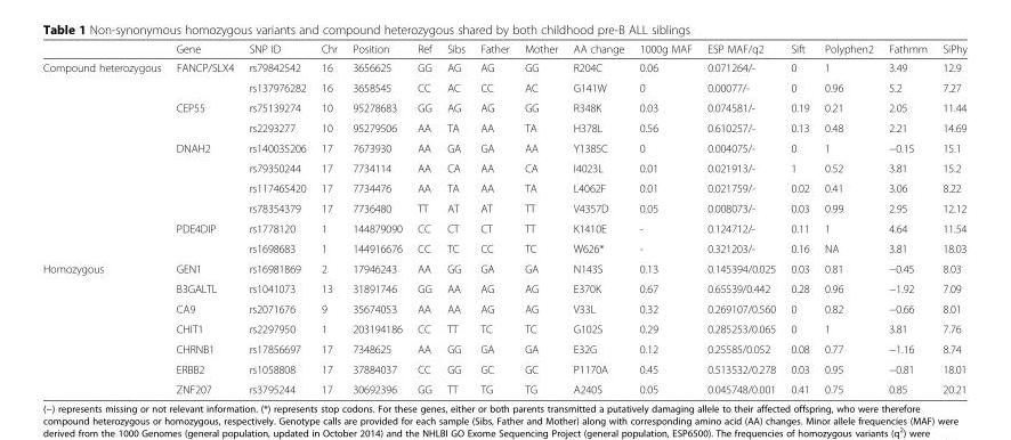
<table><thead><tr><td></td><td>Gene</td><td>SNP ID</td><td>Chr</td><td>Position</td><td>Ref</td><td>Sibs</td><td>Father</td><td>Mother</td><td>AA change</td><td>1000g MAF</td><td>ESP MAF/q2</td><td>Sift</td><td>Polyphen2</td><td>Fathmm</td><td>SiPhy</td></tr></thead><tbody><tr><td rowspan="10">Compound heterozygous</td><td rowspan="2">FANCP/SLX4</td><td>rs79842542</td><td>16</td><td>3656625</td><td>GG</td><td>AG</td><td>AG</td><td>GG</td><td>R204C</td><td>0.06</td><td>0.071264/-</td><td>0</td><td>1</td><td>3.49</td><td>12.9</td></tr><tr><td>rs137976282</td><td>16</td><td>3658545</td><td>CC</td><td>AC</td><td>CC</td><td>AC</td><td>G141W</td><td>0</td><td>0.00077/-</td><td>0</td><td>0.96</td><td>5.2</td><td>7.27</td></tr><tr><td rowspan="2">CEP55</td><td>rs75139274</td><td>10</td><td>95278683</td><td>GG</td><td>AG</td><td>AG</td><td>GG</td><td>R348K</td><td>0.03</td><td>0.074581/-</td><td>0.19</td><td>0.21</td><td>2.05</td><td>11.44</td></tr><tr><td>rs2293277</td><td>10</td><td>95279506</td><td>AA</td><td>TA</td><td>AA</td><td>TA</td><td>H378L</td><td>0.56</td><td>0.610257/-</td><td>0.13</td><td>0.48</td><td>2.21</td><td>14.69</td></tr><tr><td rowspan="4">DNAH2</td><td>rs140035206</td><td>17</td><td>7673930</td><td>AA</td><td>GA</td><td>GA</td><td>AA</td><td>Y1385C</td><td>0</td><td>0.004075/-</td><td>0</td><td>1</td><td>−0.15</td><td>15.1</td></tr><tr><td>rs79350244</td><td>17</td><td>7734114</td><td>AA</td><td>CA</td><td>AA</td><td>CA</td><td>I4023L</td><td>0.01</td><td>0.021913/-</td><td>1</td><td>0.52</td><td>3.81</td><td>15.2</td></tr><tr><td>rs117465420</td><td>17</td><td>7734476</td><td>AA</td><td>TA</td><td>AA</td><td>TA</td><td>L4062F</td><td>0.01</td><td>0.021759/-</td><td>0.02</td><td>0.41</td><td>3.06</td><td>8.22</td></tr><tr><td>rs78354379</td><td>17</td><td>7736480</td><td>TT</td><td>AT</td><td>AT</td><td>TT</td><td>V4357D</td><td>0.05</td><td>0.008073/-</td><td>0.03</td><td>0.99</td><td>2.95</td><td>12.12</td></tr><tr><td rowspan="2">PDE4DIP</td><td>rs1778120</td><td>1</td><td>144879090</td><td>CC</td><td>CT</td><td>CT</td><td>TT</td><td>K1410E</td><td>-</td><td>0.124712/-</td><td>0.11</td><td>1</td><td>4.64</td><td>11.54</td></tr><tr><td>rs1698683</td><td>1</td><td>144916676</td><td>CC</td><td>TC</td><td>CC</td><td>TC</td><td>W626*</td><td>-</td><td>0.321203/-</td><td>0.16</td><td>NA</td><td>3.81</td><td>18.03</td></tr><tr><td rowspan="7">Homozygous</td><td>GEN1</td><td>rs16981869</td><td>2</td><td>17946243</td><td>AA</td><td>GG</td><td>GA</td><td>GA</td><td>N143S</td><td>0.13</td><td>0.145394/0.025</td><td>0.03</td><td>0.81</td><td>−0.45</td><td>8.03</td></tr><tr><td>B3GALTL</td><td>rs1041073</td><td>13</td><td>31891746</td><td>GG</td><td>AA</td><td>AG</td><td>AG</td><td>E370K</td><td>0.67</td><td>0.65539/0.442</td><td>0.28</td><td>0.96</td><td>−1.92</td><td>7.09</td></tr><tr><td>CA9</td><td>rs2071676</td><td>9</td><td>35674053</td><td>AA</td><td>AA</td><td>AG</td><td>AG</td><td>V33L</td><td>0.32</td><td>0.269107/0.560</td><td>0</td><td>0.82</td><td>−0.66</td><td>8.01</td></tr><tr><td>CHIT1</td><td>rs2297950</td><td>1</td><td>203194186</td><td>CC</td><td>TT</td><td>TC</td><td>TC</td><td>G102S</td><td>0.29</td><td>0.285253/0.065</td><td>0</td><td>1</td><td>3.81</td><td>7.76</td></tr><tr><td>CHRNB1</td><td>rs17856697</td><td>17</td><td>7348625</td><td>AA</td><td>GG</td><td>GA</td><td>GA</td><td>E32G</td><td>0.12</td><td>0.25585/0.052</td><td>0.08</td><td>0.77</td><td>−1.16</td><td>8.74</td></tr><tr><td>ERBB2</td><td>rs1058808</td><td>17</td><td>37884037</td><td>CC</td><td>GG</td><td>GC</td><td>GC</td><td>P1170A</td><td>0.45</td><td>0.513532/0.278</td><td>0.03</td><td>0.95</td><td>−0.81</td><td>18.01</td></tr><tr><td>ZNF207</td><td>rs3795244</td><td>17</td><td>30692396</td><td>GG</td><td>TT</td><td>TG</td><td>TG</td><td>A240S</td><td>0.05</td><td>0.045748/0.001</td><td>0.41</td><td>0.75</td><td>0.85</td><td>20.21</td></tr></tbody></table>